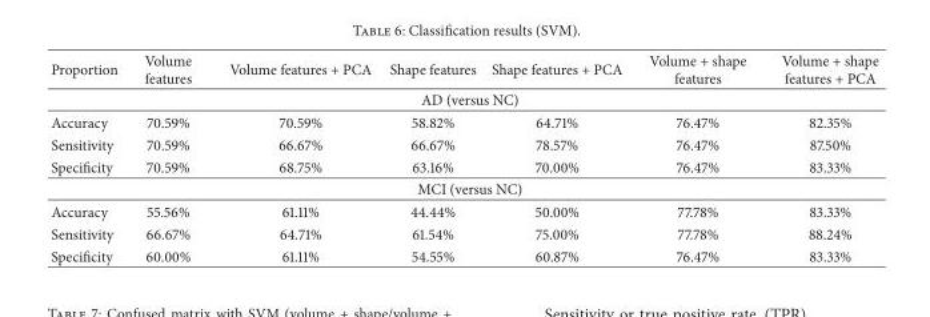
<table><thead><tr><td>Proportion</td><td>Volume features</td><td>Volume features + PCA</td><td>Shape features</td><td>Shape features + PCA</td><td>Volume + shape features</td><td>Volume + shape features + PCA</td></tr></thead><tbody><tr><td colspan="7">AD (versus NC)</td></tr><tr><td>Accuracy</td><td>70.59%</td><td>70.59%</td><td>58.82%</td><td>64.71%</td><td>76.47%</td><td>82.35%</td></tr><tr><td>Sensitivity</td><td>70.59%</td><td>66.67%</td><td>66.67%</td><td>78.57%</td><td>76.47%</td><td>87.50%</td></tr><tr><td>Specificity</td><td>70.59%</td><td>68.75%</td><td>63.16%</td><td>70.00%</td><td>76.47%</td><td>83.33%</td></tr><tr><td colspan="7">MCI (versus NC)</td></tr><tr><td>Accuracy</td><td>55.56%</td><td>61.11%</td><td>44.44%</td><td>50.00%</td><td>77.78%</td><td>83.33%</td></tr><tr><td>Sensitivity</td><td>66.67%</td><td>64.71%</td><td>61.54%</td><td>75.00%</td><td>77.78%</td><td>88.24%</td></tr><tr><td>Specificity</td><td>60.00%</td><td>61.11%</td><td>54.55%</td><td>60.87%</td><td>76.47%</td><td>83.33%</td></tr></tbody></table>